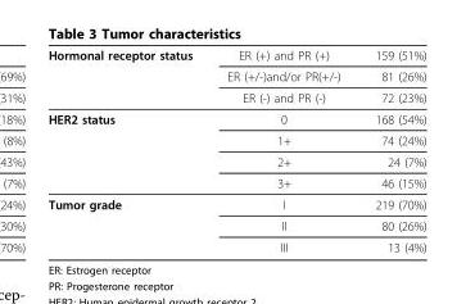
<table><thead><tr><td rowspan="3">Hormonal receptor status</td><td rowspan="3">ER (+) and PR (+) ER (+/-)and/or PR(+/-) ER (-) and PR (-)</td><td rowspan="3">159 (51%) 81 (26%) 72 (23%)</td></tr><tr></tr><tr></tr></thead><tbody><tr><td rowspan="4">HER2 status</td><td>0</td><td>168 (54%)</td></tr><tr><td>1+</td><td>74 (24%)</td></tr><tr><td>2+</td><td>24 (7%)</td></tr><tr><td>3+</td><td>46 (15%)</td></tr><tr><td rowspan="3">Tumor grade</td><td>I</td><td>219 (70%)</td></tr><tr><td>II</td><td>80 (26%)</td></tr><tr><td>III</td><td>13 (4%)</td></tr></tbody></table>